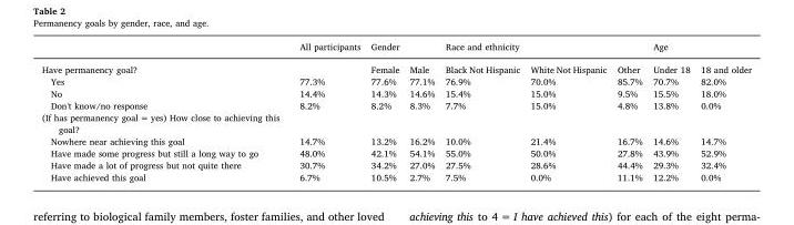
<table><thead><tr><td rowspan="2">Have permanency goal?</td><td rowspan="2">All participants</td><td colspan="2">Gender</td><td colspan="3">Race and ethnicity</td><td colspan="2">Age</td></tr><tr><td>Female</td><td>Male</td><td>Black Not Hispanic</td><td>White Not Hispanic</td><td>Other</td><td>Under 18</td><td>18 and older</td></tr></thead><tbody><tr><td>Yes</td><td>77.3%</td><td>77.6%</td><td>77.1%</td><td>76.9%</td><td>70.0%</td><td>85.7%</td><td>70.7%</td><td>82.0%</td></tr><tr><td>No</td><td>14.4%</td><td>14.3%</td><td>14.6%</td><td>15.4%</td><td>15.0%</td><td>9.5%</td><td>15.5%</td><td>18.0%</td></tr><tr><td>Don&#x27;t know/no response</td><td>8.2%</td><td>8.2%</td><td>8.3%</td><td>7.7%</td><td>15.0%</td><td>4.8%</td><td>13.8%</td><td>0.0%</td></tr><tr><td colspan="9">(If has permanency goal = yes) How close to achieving this goal?</td></tr><tr><td>Nowhere near achieving this goal</td><td>14.7%</td><td>13.2%</td><td>16.2%</td><td>10.0%</td><td>21.4%</td><td>16.7%</td><td>14.6%</td><td>14.7%</td></tr><tr><td>Have made some progress but still a long way to go</td><td>48.0%</td><td>42.1%</td><td>54.1%</td><td>55.0%</td><td>50.0%</td><td>27.8%</td><td>43.9%</td><td>52.9%</td></tr><tr><td>Have made a lot of progress but not quite there</td><td>30.7%</td><td>34.2%</td><td>27.0%</td><td>27.5%</td><td>28.6%</td><td>44.4%</td><td>29.3%</td><td>32.4%</td></tr><tr><td>Have achieved this goal</td><td>6.7%</td><td>10.5%</td><td>2.7%</td><td>7.5%</td><td>0.0%</td><td>11.1%</td><td>12.2%</td><td>0.0%</td></tr></tbody></table>